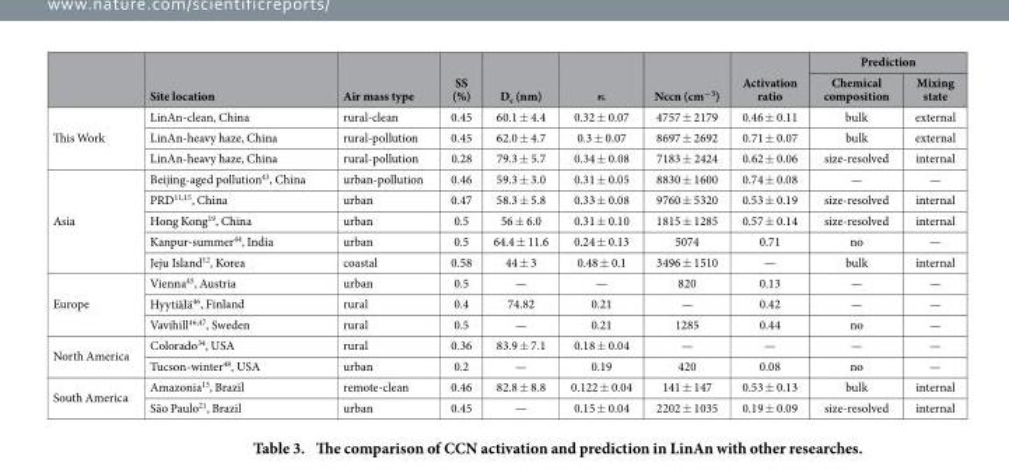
<table><thead><tr><td rowspan="2"></td><td rowspan="2">Site location</td><td rowspan="2">Air mass type</td><td rowspan="2">SS (%)</td><td rowspan="2">D<sub>c</sub> (nm)</td><td rowspan="2">κ</td><td rowspan="2">Nccn (cm<sup>−3</sup>)</td><td rowspan="2">Activation ratio</td><td colspan="2">Prediction</td></tr><tr><td>Chemical composition</td><td>Mixing state</td></tr></thead><tbody><tr><td rowspan="3">This Work</td><td>LinAn-clean, China</td><td>rural-clean</td><td>0.45</td><td>60.1 ± 4.4</td><td>0.32 ± 0.07</td><td>4757 ± 2179</td><td>0.46 ± 0.11</td><td>bulk</td><td>external</td></tr><tr><td>LinAn-heavy haze, China</td><td>rural-pollution</td><td>0.45</td><td>62.0 ± 4.7</td><td>0.3 ± 0.07</td><td>8697 ± 2692</td><td>0.71 ± 0.07</td><td>bulk</td><td>external</td></tr><tr><td>LinAn-heavy haze, China</td><td>rural-pollution</td><td>0.28</td><td>79.3 ± 5.7</td><td>0.34 ± 0.08</td><td>7183 ± 2424</td><td>0.62 ± 0.06</td><td>size-resolved</td><td>internal</td></tr><tr><td rowspan="5">Asia</td><td>Beijing-aged pollution<sup>43</sup>, China</td><td>urban-pollution</td><td>0.46</td><td>59.3 ± 3.0</td><td>0.31 ± 0.05</td><td>8830 ± 1600</td><td>0.74 ± 0.08</td><td>—</td><td>—</td></tr><tr><td>PRD<sup>11</sup>,<sup>15</sup>, China</td><td>urban</td><td>0.47</td><td>58.3 ± 5.8</td><td>0.33 ± 0.08</td><td>9760 ± 5320</td><td>0.53 ± 0.19</td><td>size-resolved</td><td>internal</td></tr><tr><td>Hong Kong<sup>19</sup>, China</td><td>urban</td><td>0.5</td><td>56 ± 6.0</td><td>0.31 ± 0.10</td><td>1815 ± 1285</td><td>0.57 ± 0.14</td><td>size-resolved</td><td>internal</td></tr><tr><td>Kanpur-summer<sup>44</sup>, India</td><td>urban</td><td>0.5</td><td>64.4 ± 11.6</td><td>0.24 ± 0.13</td><td>5074</td><td>0.71</td><td>no</td><td>—</td></tr><tr><td>Jeju Island<sup>12</sup>, Korea</td><td>coastal</td><td>0.58</td><td>44 ± 3</td><td>0.48 ± 0.1</td><td>3496 ± 1510</td><td>—</td><td>bulk</td><td>internal</td></tr><tr><td rowspan="3">Europe</td><td>Vienna<sup>45</sup>, Austria</td><td>urban</td><td>0.5</td><td>—</td><td>—</td><td>820</td><td>0.13</td><td>—</td><td>—</td></tr><tr><td>Hyytiälä<sup>46</sup>, Finland</td><td>rural</td><td>0.4</td><td>74.82</td><td>0.21</td><td>—</td><td>0.42</td><td>—</td><td>—</td></tr><tr><td>Vavihill<sup>46</sup>,<sup>47</sup>, Sweden</td><td>rural</td><td>0.5</td><td>—</td><td>0.21</td><td>1285</td><td>0.44</td><td>no</td><td>—</td></tr><tr><td rowspan="2">North America</td><td>Colorado<sup>34</sup>, USA</td><td>rural</td><td>0.36</td><td>83.9 ± 7.1</td><td>0.18 ± 0.04</td><td>—</td><td>—</td><td>—</td><td>—</td></tr><tr><td>Tucson-winter<sup>48</sup>, USA</td><td>urban</td><td>0.2</td><td>—</td><td>0.19</td><td>420</td><td>0.08</td><td>no</td><td>—</td></tr><tr><td rowspan="2">South America</td><td>Amazonia<sup>13</sup>, Brazil</td><td>remote-clean</td><td>0.46</td><td>82.8 ± 8.8</td><td>0.122 ± 0.04</td><td>141 ± 147</td><td>0.53 ± 0.13</td><td>bulk</td><td>internal</td></tr><tr><td>São Paulo<sup>21</sup>, Brazil</td><td>urban</td><td>0.45</td><td>—</td><td>0.15 ± 0.04</td><td>2202 ± 1035</td><td>0.19 ± 0.09</td><td>size-resolved</td><td>internal</td></tr></tbody></table>